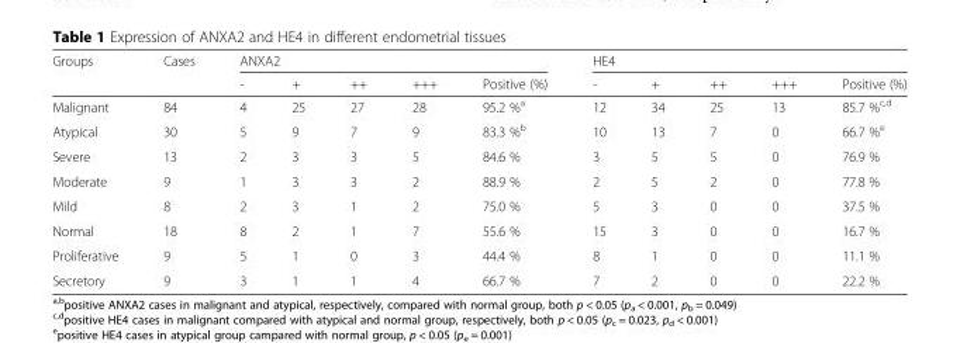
<table><thead><tr><td rowspan="2">Groups</td><td rowspan="2">Cases</td><td colspan="5">ANXA2</td><td colspan="5">HE4</td></tr><tr><td>-</td><td>+</td><td>++</td><td>+++</td><td>Positive (%)</td><td>-</td><td>+</td><td>++</td><td>+++</td><td>Positive (%)</td></tr></thead><tbody><tr><td>Malignant</td><td>84</td><td>4</td><td>25</td><td>27</td><td>28</td><td>95.2 %<sup>a</sup></td><td>12</td><td>34</td><td>25</td><td>13</td><td>85.7 %<sup>c,d</sup></td></tr><tr><td>Atypical</td><td>30</td><td>5</td><td>9</td><td>7</td><td>9</td><td>83.3 %<sup>b</sup></td><td>10</td><td>13</td><td>7</td><td>0</td><td>66.7 %<sup>e</sup></td></tr><tr><td>Severe</td><td>13</td><td>2</td><td>3</td><td>3</td><td>5</td><td>84.6 %</td><td>3</td><td>5</td><td>5</td><td>0</td><td>76.9 %</td></tr><tr><td>Moderate</td><td>9</td><td>1</td><td>3</td><td>3</td><td>2</td><td>88.9 %</td><td>2</td><td>5</td><td>2</td><td>0</td><td>77.8 %</td></tr><tr><td>Mild</td><td>8</td><td>2</td><td>3</td><td>1</td><td>2</td><td>75.0 %</td><td>5</td><td>3</td><td>0</td><td>0</td><td>37.5 %</td></tr><tr><td>Normal</td><td>18</td><td>8</td><td>2</td><td>1</td><td>7</td><td>55.6 %</td><td>15</td><td>3</td><td>0</td><td>0</td><td>16.7 %</td></tr><tr><td>Proliferative</td><td>9</td><td>5</td><td>1</td><td>0</td><td>3</td><td>44.4 %</td><td>8</td><td>1</td><td>0</td><td>0</td><td>11.1 %</td></tr><tr><td>Secretory</td><td>9</td><td>3</td><td>1</td><td>1</td><td>4</td><td>66.7 %</td><td>7</td><td>2</td><td>0</td><td>0</td><td>22.2 %</td></tr></tbody></table>